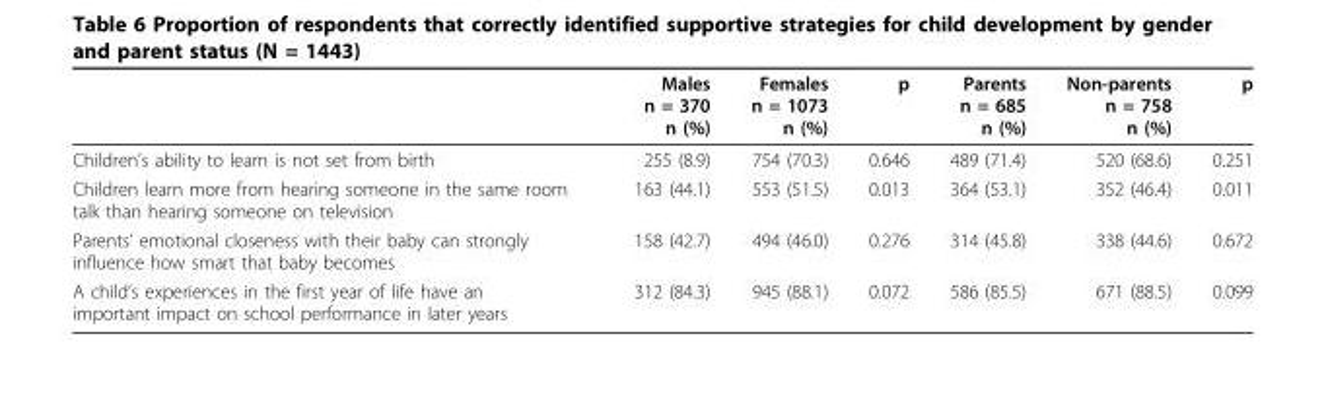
<table><thead><tr><td></td><td>Males n = 370 n (%)</td><td>Females n = 1073 n (%)</td><td>p</td><td>Parents n = 685 n (%)</td><td>Non-parents n = 758 n (%)</td><td>p</td></tr></thead><tbody><tr><td>Children’s ability to learn is not set from birth</td><td>255 (8.9)</td><td>754 (70.3)</td><td>0.646</td><td>489 (71.4)</td><td>520 (68.6)</td><td>0.251</td></tr><tr><td>Children learn more from hearing someone in the same room talk than hearing someone on television</td><td>163 (44.1)</td><td>553 (51.5)</td><td>0.013</td><td>364 (53.1)</td><td>352 (46.4)</td><td>0.011</td></tr><tr><td>Parents’ emotional closeness with their baby can strongly influence how smart that baby becomes</td><td>158 (42.7)</td><td>494 (46.0)</td><td>0.276</td><td>314 (45.8)</td><td>338 (44.6)</td><td>0.672</td></tr><tr><td>A child’s experiences in the first year of life have an important impact on school performance in later years</td><td>312 (84.3)</td><td>945 (88.1)</td><td>0.072</td><td>586 (85.5)</td><td>671 (88.5)</td><td>0.099</td></tr></tbody></table>